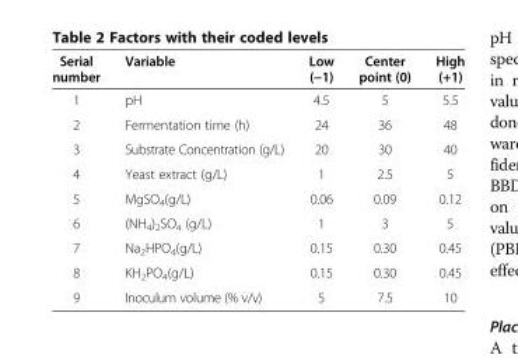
<table><thead><tr><td>Serial number</td><td>Variable</td><td>Low (−1)</td><td>Center point (0)</td><td>High (+1)</td></tr></thead><tbody><tr><td>1</td><td>pH</td><td>4.5</td><td>5</td><td>5.5</td></tr><tr><td>2</td><td>Fermentation time (h)</td><td>24</td><td>36</td><td>48</td></tr><tr><td>3</td><td>Substrate Concentration (g/L)</td><td>20</td><td>30</td><td>40</td></tr><tr><td>4</td><td>Yeast extract (g/L)</td><td>1</td><td>2.5</td><td>5</td></tr><tr><td>5</td><td>MgSO<sub>4</sub>(g/L)</td><td>0.06</td><td>0.09</td><td>0.12</td></tr><tr><td>6</td><td>(NH<sub>4</sub>)<sub>2</sub>SO<sub>4</sub> (g/L)</td><td>1</td><td>3</td><td>5</td></tr><tr><td>7</td><td>Na<sub>2</sub>HPO<sub>4</sub>(g/L)</td><td>0.15</td><td>0.30</td><td>0.45</td></tr><tr><td>8</td><td>KH<sub>2</sub>PO<sub>4</sub>(g/L)</td><td>0.15</td><td>0.30</td><td>0.45</td></tr><tr><td>9</td><td>Inoculum volume (% v/v)</td><td>5</td><td>7.5</td><td>10</td></tr></tbody></table>